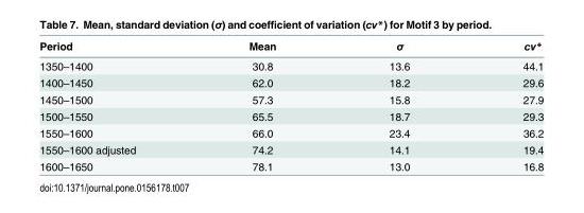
<table><thead><tr><td>Period</td><td>Mean</td><td>σ</td><td>cv*</td></tr></thead><tbody><tr><td>1350–1400</td><td>30.8</td><td>13.6</td><td>44.1</td></tr><tr><td>1400–1450</td><td>62.0</td><td>18.2</td><td>29.6</td></tr><tr><td>1450–1500</td><td>57.3</td><td>15.8</td><td>27.9</td></tr><tr><td>1500–1550</td><td>65.5</td><td>18.7</td><td>29.3</td></tr><tr><td>1550–1600</td><td>66.0</td><td>23.4</td><td>36.2</td></tr><tr><td>1550–1600 adjusted</td><td>74.2</td><td>14.1</td><td>19.4</td></tr><tr><td>1600–1650</td><td>78.1</td><td>13.0</td><td>16.8</td></tr></tbody></table>